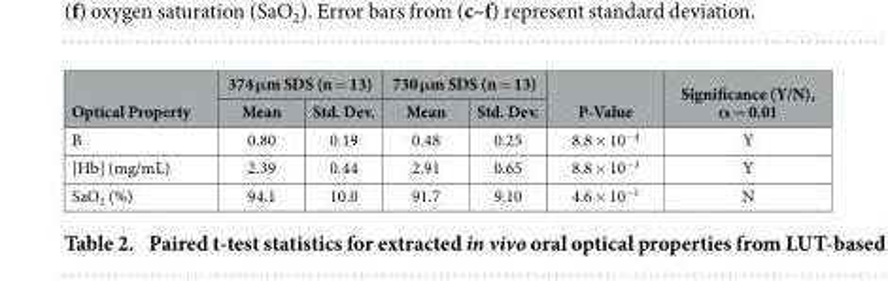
<table><thead><tr><td rowspan="2">Optical Property</td><td colspan="2">374 μm SDS (n = 13)</td><td colspan="2">730 μm SDS (n = 13)</td><td rowspan="2">P-Value</td><td rowspan="2">Significance (Y/N), α = 0.01</td></tr><tr><td>Mean</td><td>Std. Dev.</td><td>Mean</td><td>Std. Dev.</td></tr></thead><tbody><tr><td>B</td><td>0.80</td><td>0.19</td><td>0.48</td><td>0.25</td><td>8.8 × 10<sup>−4</sup></td><td>Y</td></tr><tr><td>[Hb] (mg/mL)</td><td>2.39</td><td>0.44</td><td>2.91</td><td>0.65</td><td>8.8 × 10<sup>−3</sup></td><td>Y</td></tr><tr><td>SaO<sub>2</sub> (%)</td><td>94.1</td><td>10.0</td><td>91.7</td><td>9.10</td><td>4.6 × 10<sup>−1</sup></td><td>N</td></tr></tbody></table>